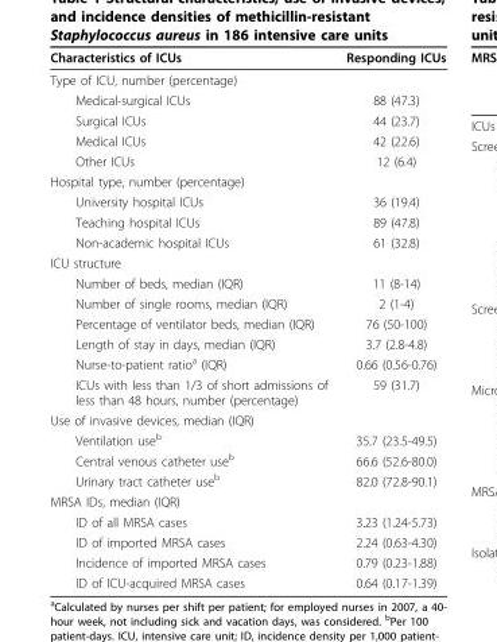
<table><thead><tr><td>Characteristics of ICUs</td><td>Responding ICUs</td></tr></thead><tbody><tr><td colspan="2">Type of ICU, number (percentage)</td></tr><tr><td>Medical-surgical ICUs</td><td>88 (47.3)</td></tr><tr><td>Surgical ICUs</td><td>44 (23.7)</td></tr><tr><td>Medical ICUs</td><td>42 (22.6)</td></tr><tr><td>Other ICUs</td><td>12 (6.4)</td></tr><tr><td colspan="2">Hospital type, number (percentage)</td></tr><tr><td>University hospital ICUs</td><td>36 (19.4)</td></tr><tr><td>Teaching hospital ICUs</td><td>89 (47.8)</td></tr><tr><td>Non-academic hospital ICUs</td><td>61 (32.8)</td></tr><tr><td colspan="2">ICU structure</td></tr><tr><td>Number of beds, median (IQR)</td><td>11 (8-14)</td></tr><tr><td>Number of single rooms, median (IQR)</td><td>2 (1-4)</td></tr><tr><td>Percentage of ventilator beds, median (IQR)</td><td>76 (50-100)</td></tr><tr><td>Length of stay in days, median (IQR)</td><td>3.7 (2.8-4.8)</td></tr><tr><td>Nurse-to-patient ratio<sup>a</sup> (IQR)</td><td>0.66 (0.56-0.76)</td></tr><tr><td>ICUs with less than 1/3 of short admissions of less than 48 hours, number (percentage)</td><td>59 (31.7)</td></tr><tr><td colspan="2">Use of invasive devices, median (IQR)</td></tr><tr><td>Ventilation use<sup>b</sup></td><td>35.7 (23.5-49.5)</td></tr><tr><td>Central venous catheter use<sup>b</sup></td><td>66.6 (52.6-80.0)</td></tr><tr><td>Urinary tract catheter use<sup>b</sup></td><td>82.0 (72.8-90.1)</td></tr><tr><td colspan="2">MRSA IDs, median (IQR)</td></tr><tr><td>ID of all MRSA cases</td><td>3.23 (1.24-5.73)</td></tr><tr><td>ID of imported MRSA cases</td><td>2.24 (0.63-4.30)</td></tr><tr><td>Incidence of imported MRSA cases</td><td>0.79 (0.23-1.88)</td></tr><tr><td>ID of ICU-acquired MRSA cases</td><td>0.64 (0.17-1.39)</td></tr></tbody></table>